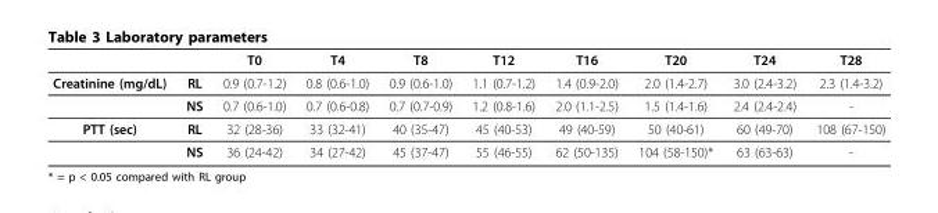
<table><thead><tr><td></td><td></td><td>T0</td><td>T4</td><td>T8</td><td>T12</td><td>T16</td><td>T20</td><td>T24</td><td>T28</td></tr></thead><tbody><tr><td rowspan="2">Creatinine (mg/dL)</td><td>RL</td><td>0.9 (0.7-1.2)</td><td>0.8 (0.6-1.0)</td><td>0.9 (0.6-1.0)</td><td>1.1 (0.7-1.2)</td><td>1.4 (0.9-2.0)</td><td>2.0 (1.4-2.7)</td><td>3.0 (2.4-3.2)</td><td>2.3 (1.4-3.2)</td></tr><tr><td>NS</td><td>0.7 (0.6-1.0)</td><td>0.7 (0.6-0.8)</td><td>0.7 (0.7-0.9)</td><td>1.2 (0.8-1.6)</td><td>2.0 (1.1-2.5)</td><td>1.5 (1.4-1.6)</td><td>2.4 (2.4-2.4)</td><td>-</td></tr><tr><td rowspan="2">PTT (sec)</td><td>RL</td><td>32 (28-36)</td><td>33 (32-41)</td><td>40 (35-47)</td><td>45 (40-53)</td><td>49 (40-59)</td><td>50 (40-61)</td><td>60 (49-70)</td><td>108 (67-150)</td></tr><tr><td>NS</td><td>36 (24-42)</td><td>34 (27-42)</td><td>45 (37-47)</td><td>55 (46-55)</td><td>62 (50-135)</td><td>104 (58-150)*</td><td>63 (63-63)</td><td>-</td></tr></tbody></table>